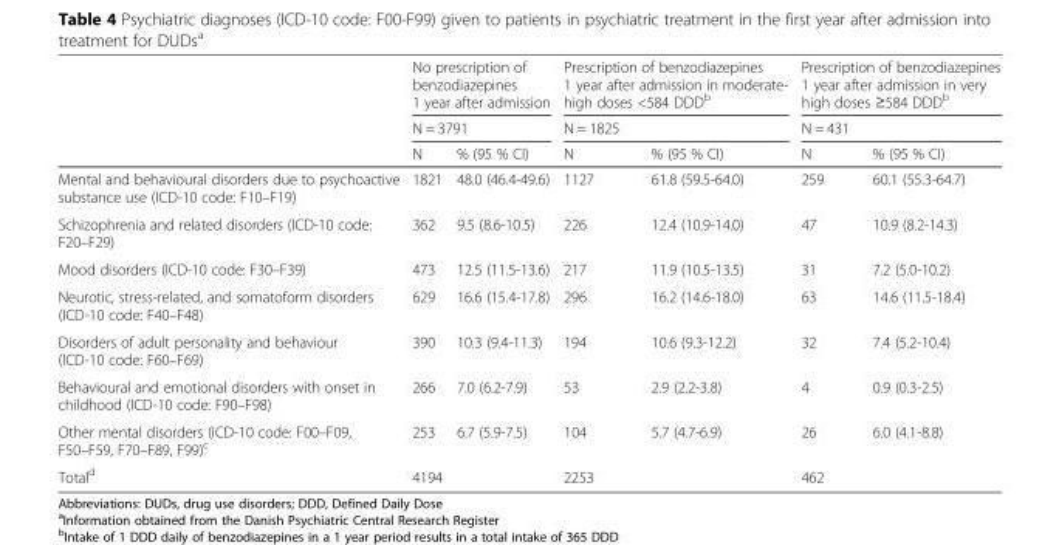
<table><thead><tr><td rowspan="3"></td><td rowspan="2" colspan="2">No prescription of benzodiazepines 1 year after admission N = 3791</td><td rowspan="2" colspan="2">Prescription of benzodiazepines 1 year after admission in moderate- high doses &lt;584 DDD<sup>b</sup> N = 1825</td><td rowspan="2" colspan="2">Prescription of benzodiazepines 1 year after admission in very high doses ≥584 DDD<sup>b</sup> N = 431</td></tr><tr></tr><tr><td>N</td><td>% (95 % CI)</td><td>N</td><td>% (95 % CI)</td><td>N</td><td>% (95 % CI)</td></tr></thead><tbody><tr><td>Mental and behavioural disorders due to psychoactive substance use (ICD-10 code: F10–F19)</td><td>1821</td><td>48.0 (46.4-49.6)</td><td>1127</td><td>61.8 (59.5-64.0)</td><td>259</td><td>60.1 (55.3-64.7)</td></tr><tr><td>Schizophrenia and related disorders (ICD-10 code: F20–F29)</td><td>362</td><td>9.5 (8.6-10.5)</td><td>226</td><td>12.4 (10.9-14.0)</td><td>47</td><td>10.9 (8.2-14.3)</td></tr><tr><td>Mood disorders (ICD-10 code: F30–F39)</td><td>473</td><td>12.5 (11.5-13.6)</td><td>217</td><td>11.9 (10.5-13.5)</td><td>31</td><td>7.2 (5.0-10.2)</td></tr><tr><td>Neurotic, stress-related, and somatoform disorders (ICD-10 code: F40–F48)</td><td>629</td><td>16.6 (15.4-17.8)</td><td>296</td><td>16.2 (14.6-18.0)</td><td>63</td><td>14.6 (11.5-18.4)</td></tr><tr><td>Disorders of adult personality and behaviour (ICD-10 code: F60–F69)</td><td>390</td><td>10.3 (9.4-11.3)</td><td>194</td><td>10.6 (9.3-12.2)</td><td>32</td><td>7.4 (5.2-10.4)</td></tr><tr><td>Behavioural and emotional disorders with onset in childhood (ICD-10 code: F90–F98)</td><td>266</td><td>7.0 (6.2-7.9)</td><td>53</td><td>2.9 (2.2-3.8)</td><td>4</td><td>0.9 (0.3-2.5)</td></tr><tr><td>Other mental disorders (ICD-10 code: F00–F09, F50–F59, F70–F89, F99)<sup>c</sup></td><td>253</td><td>6.7 (5.9-7.5)</td><td>104</td><td>5.7 (4.7-6.9)</td><td>26</td><td>6.0 (4.1-8.8)</td></tr><tr><td>Total<sup>d</sup></td><td>4194</td><td></td><td>2253</td><td></td><td>462</td><td></td></tr></tbody></table>